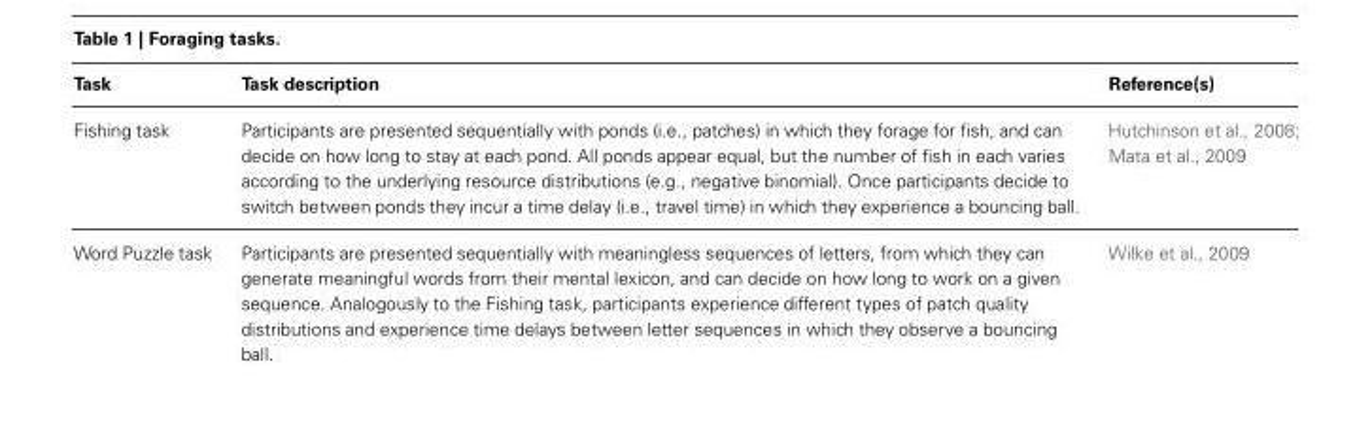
<table><thead><tr><td>Task</td><td>Task description</td><td>Reference(s)</td></tr></thead><tbody><tr><td>Fishing task</td><td>Participants are presented sequentially with ponds (i.e., patches) in which they forage for fish, and can decide on how long to stay at each pond. All ponds appear equal, but the number of fish in each varies according to the underlying resource distributions (e.g., negative binomial). Once participants decide to switch between ponds they incur a time delay (i.e., travel time) in which they experience a bouncing ball.</td><td>Hutchinson et al., 2008; Mata et al., 2009</td></tr><tr><td>Word Puzzle task</td><td>Participants are presented sequentially with meaningless sequences of letters, from which they can generate meaningful words from their mental lexicon, and can decide on how long to work on a given sequence. Analogously to the Fishing task, participants experience different types of patch quality distributions and experience time delays between letter sequences in which they observe a bouncing ball.</td><td>Wilke et al., 2009</td></tr></tbody></table>